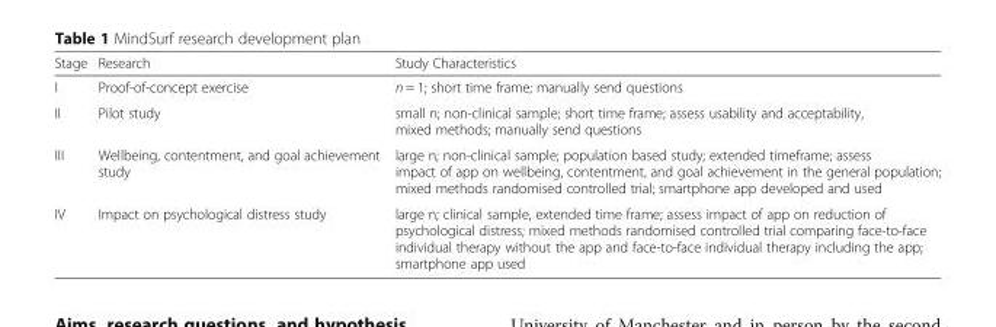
<table><thead><tr><td>Stage</td><td>Research</td><td>Study Characteristics</td></tr></thead><tbody><tr><td>I</td><td>Proof-of-concept exercise</td><td>n = 1; short time frame; manually send questions</td></tr><tr><td>II</td><td>Pilot study</td><td>small n; non-clinical sample; short time frame; assess usability and acceptability, mixed methods; manually send questions</td></tr><tr><td>III</td><td>Wellbeing, contentment, and goal achievement study</td><td>large n; non-clinical sample; population based study; extended timeframe; assess impact of app on wellbeing, contentment, and goal achievement in the general population; mixed methods randomised controlled trial; smartphone app developed and used</td></tr><tr><td>IV</td><td>Impact on psychological distress study</td><td>large n; clinical sample, extended time frame; assess impact of app on reduction of psychological distress; mixed methods randomised controlled trial comparing face-to-face individual therapy without the app and face-to-face individual therapy including the app; smartphone app used</td></tr></tbody></table>